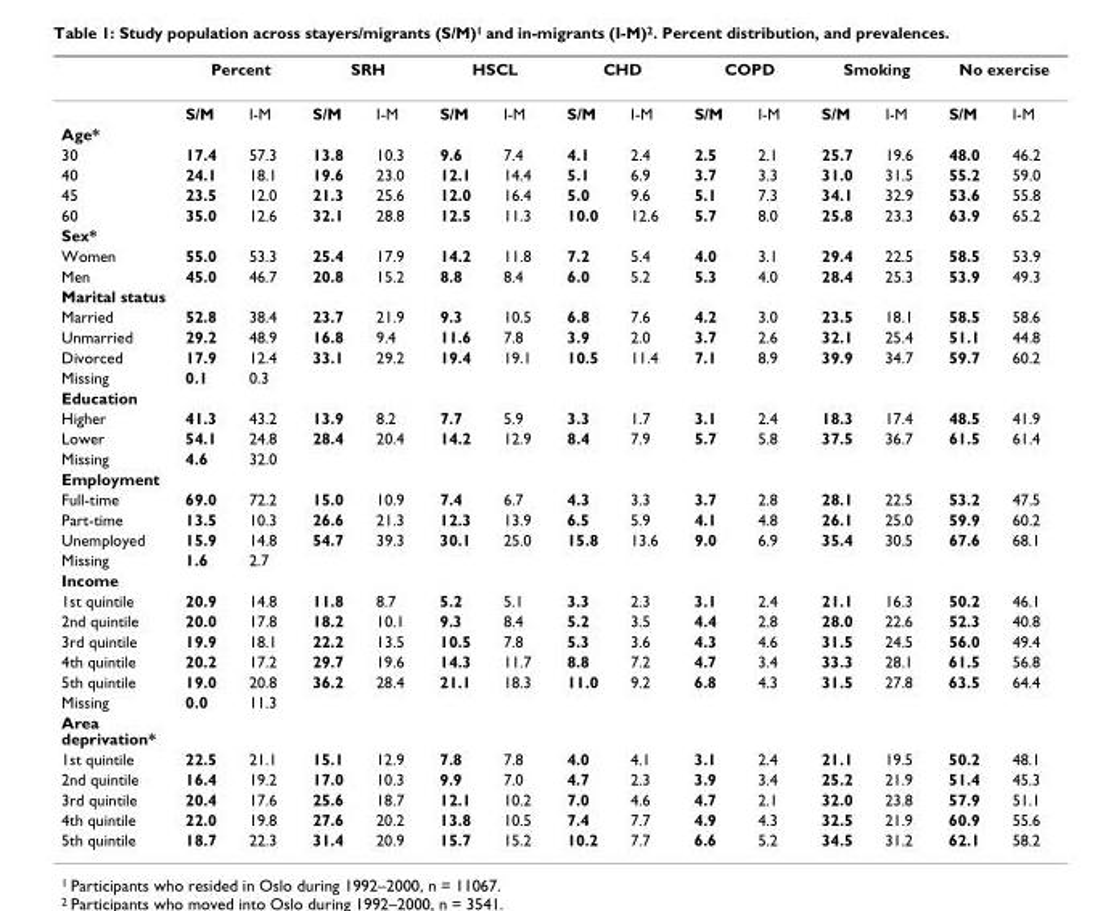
<table><thead><tr><td rowspan="2"></td><td colspan="2">Percent</td><td colspan="2">SRH</td><td colspan="2">HSCL</td><td colspan="2">CHD</td><td colspan="2">COPD</td><td colspan="2">Smoking</td><td colspan="2">No exercise</td></tr><tr><td>S/M</td><td>I-M</td><td>S/M</td><td>I-M</td><td>S/M</td><td>I-M</td><td>S/M</td><td>I-M</td><td>S/M</td><td>I-M</td><td>S/M</td><td>I-M</td><td>S/M</td><td>I-M</td></tr></thead><tbody><tr><td colspan="15">Age*</td></tr><tr><td>30</td><td>17.4</td><td>57.3</td><td>13.8</td><td>10.3</td><td>9.6</td><td>7.4</td><td>4.1</td><td>2.4</td><td>2.5</td><td>2.1</td><td>25.7</td><td>19.6</td><td>48.0</td><td>46.2</td></tr><tr><td>40</td><td>24.1</td><td>18.1</td><td>19.6</td><td>23.0</td><td>12.1</td><td>14.4</td><td>5.1</td><td>6.9</td><td>3.7</td><td>3.3</td><td>31.0</td><td>31.5</td><td>55.2</td><td>59.0</td></tr><tr><td>45</td><td>23.5</td><td>12.0</td><td>21.3</td><td>25.6</td><td>12.0</td><td>16.4</td><td>5.0</td><td>9.6</td><td>5.1</td><td>7.3</td><td>34.1</td><td>32.9</td><td>53.6</td><td>55.8</td></tr><tr><td>60</td><td>35.0</td><td>12.6</td><td>32.1</td><td>28.8</td><td>12.5</td><td>11.3</td><td>10.0</td><td>12.6</td><td>5.7</td><td>8.0</td><td>25.8</td><td>23.3</td><td>63.9</td><td>65.2</td></tr><tr><td colspan="15">Sex*</td></tr><tr><td>Women</td><td>55.0</td><td>53.3</td><td>25.4</td><td>17.9</td><td>14.2</td><td>11.8</td><td>7.2</td><td>5.4</td><td>4.0</td><td>3.1</td><td>29.4</td><td>22.5</td><td>58.5</td><td>53.9</td></tr><tr><td>Men</td><td>45.0</td><td>46.7</td><td>20.8</td><td>15.2</td><td>8.8</td><td>8.4</td><td>6.0</td><td>5.2</td><td>5.3</td><td>4.0</td><td>28.4</td><td>25.3</td><td>53.9</td><td>49.3</td></tr><tr><td colspan="15">Marital status</td></tr><tr><td>Married</td><td>52.8</td><td>38.4</td><td>23.7</td><td>21.9</td><td>9.3</td><td>10.5</td><td>6.8</td><td>7.6</td><td>4.2</td><td>3.0</td><td>23.5</td><td>18.1</td><td>58.5</td><td>58.6</td></tr><tr><td>Unmarried</td><td>29.2</td><td>48.9</td><td>16.8</td><td>9.4</td><td>11.6</td><td>7.8</td><td>3.9</td><td>2.0</td><td>3.7</td><td>2.6</td><td>32.1</td><td>25.4</td><td>51.1</td><td>44.8</td></tr><tr><td>Divorced</td><td>17.9</td><td>12.4</td><td>33.1</td><td>29.2</td><td>19.4</td><td>19.1</td><td>10.5</td><td>11.4</td><td>7.1</td><td>8.9</td><td>39.9</td><td>34.7</td><td>59.7</td><td>60.2</td></tr><tr><td>Missing</td><td>0.1</td><td>0.3</td><td></td><td></td><td></td><td></td><td></td><td></td><td></td><td></td><td></td><td></td><td></td><td></td></tr><tr><td colspan="15">Education</td></tr><tr><td>Higher</td><td>41.3</td><td>43.2</td><td>13.9</td><td>8.2</td><td>7.7</td><td>5.9</td><td>3.3</td><td>1.7</td><td>3.1</td><td>2.4</td><td>18.3</td><td>17.4</td><td>48.5</td><td>41.9</td></tr><tr><td>Lower</td><td>54.1</td><td>24.8</td><td>28.4</td><td>20.4</td><td>14.2</td><td>12.9</td><td>8.4</td><td>7.9</td><td>5.7</td><td>5.8</td><td>37.5</td><td>36.7</td><td>61.5</td><td>61.4</td></tr><tr><td>Missing</td><td>4.6</td><td>32.0</td><td></td><td></td><td></td><td></td><td></td><td></td><td></td><td></td><td></td><td></td><td></td><td></td></tr><tr><td colspan="15">Employment</td></tr><tr><td>Full-time</td><td>69.0</td><td>72.2</td><td>15.0</td><td>10.9</td><td>7.4</td><td>6.7</td><td>4.3</td><td>3.3</td><td>3.7</td><td>2.8</td><td>28.1</td><td>22.5</td><td>53.2</td><td>47.5</td></tr><tr><td>Part-time</td><td>13.5</td><td>10.3</td><td>26.6</td><td>21.3</td><td>12.3</td><td>13.9</td><td>6.5</td><td>5.9</td><td>4.1</td><td>4.8</td><td>26.1</td><td>25.0</td><td>59.9</td><td>60.2</td></tr><tr><td>Unemployed</td><td>15.9</td><td>14.8</td><td>54.7</td><td>39.3</td><td>30.1</td><td>25.0</td><td>15.8</td><td>13.6</td><td>9.0</td><td>6.9</td><td>35.4</td><td>30.5</td><td>67.6</td><td>68.1</td></tr><tr><td>Missing</td><td>1.6</td><td>2.7</td><td></td><td></td><td></td><td></td><td></td><td></td><td></td><td></td><td></td><td></td><td></td><td></td></tr><tr><td colspan="15">Income</td></tr><tr><td>1st quintile</td><td>20.9</td><td>14.8</td><td>11.8</td><td>8.7</td><td>5.2</td><td>5.1</td><td>3.3</td><td>2.3</td><td>3.1</td><td>2.4</td><td>21.1</td><td>16.3</td><td>50.2</td><td>46.1</td></tr><tr><td>2nd quintile</td><td>20.0</td><td>17.8</td><td>18.2</td><td>10.1</td><td>9.3</td><td>8.4</td><td>5.2</td><td>3.5</td><td>4.4</td><td>2.8</td><td>28.0</td><td>22.6</td><td>52.3</td><td>40.8</td></tr><tr><td>3rd quintile</td><td>19.9</td><td>18.1</td><td>22.2</td><td>13.5</td><td>10.5</td><td>7.8</td><td>5.3</td><td>3.6</td><td>4.3</td><td>4.6</td><td>31.5</td><td>24.5</td><td>56.0</td><td>49.4</td></tr><tr><td>4th quintile</td><td>20.2</td><td>17.2</td><td>29.7</td><td>19.6</td><td>14.3</td><td>11.7</td><td>8.8</td><td>7.2</td><td>4.7</td><td>3.4</td><td>33.3</td><td>28.1</td><td>61.5</td><td>56.8</td></tr><tr><td>5th quintile</td><td>19.0</td><td>20.8</td><td>36.2</td><td>28.4</td><td>21.1</td><td>18.3</td><td>11.0</td><td>9.2</td><td>6.8</td><td>4.3</td><td>31.5</td><td>27.8</td><td>63.5</td><td>64.4</td></tr><tr><td>Missing</td><td>0.0</td><td>11.3</td><td></td><td></td><td></td><td></td><td></td><td></td><td></td><td></td><td></td><td></td><td></td><td></td></tr><tr><td colspan="15">Area deprivation*</td></tr><tr><td>1st quintile</td><td>22.5</td><td>21.1</td><td>15.1</td><td>12.9</td><td>7.8</td><td>7.8</td><td>4.0</td><td>4.1</td><td>3.1</td><td>2.4</td><td>21.1</td><td>19.5</td><td>50.2</td><td>48.1</td></tr><tr><td>2nd quintile</td><td>16.4</td><td>19.2</td><td>17.0</td><td>10.3</td><td>9.9</td><td>7.0</td><td>4.7</td><td>2.3</td><td>3.9</td><td>3.4</td><td>25.2</td><td>21.9</td><td>51.4</td><td>45.3</td></tr><tr><td>3rd quintile</td><td>20.4</td><td>17.6</td><td>25.6</td><td>18.7</td><td>12.1</td><td>10.2</td><td>7.0</td><td>4.6</td><td>4.7</td><td>2.1</td><td>32.0</td><td>23.8</td><td>57.9</td><td>51.1</td></tr><tr><td>4th quintile</td><td>22.0</td><td>19.8</td><td>27.6</td><td>20.2</td><td>13.8</td><td>10.5</td><td>7.4</td><td>7.7</td><td>4.9</td><td>4.3</td><td>32.5</td><td>21.9</td><td>60.9</td><td>55.6</td></tr><tr><td>5th quintile</td><td>18.7</td><td>22.3</td><td>31.4</td><td>20.9</td><td>15.7</td><td>15.2</td><td>10.2</td><td>7.7</td><td>6.6</td><td>5.2</td><td>34.5</td><td>31.2</td><td>62.1</td><td>58.2</td></tr></tbody></table>